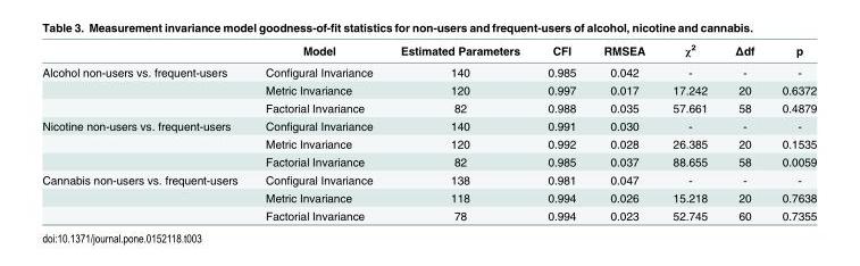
<table><thead><tr><td></td><td>Model</td><td>Estimated Parameters</td><td>CFI</td><td>RMSEA</td><td>χ<sup>2</sup></td><td>Δdf</td><td>p</td></tr></thead><tbody><tr><td rowspan="3">Alcohol non-users vs. frequent-users</td><td>Configural Invariance</td><td>140</td><td>0.985</td><td>0.042</td><td>-</td><td>-</td><td>-</td></tr><tr><td>Metric Invariance</td><td>120</td><td>0.997</td><td>0.017</td><td>17.242</td><td>20</td><td>0.6372</td></tr><tr><td>Factorial Invariance</td><td>82</td><td>0.988</td><td>0.035</td><td>57.661</td><td>58</td><td>0.4879</td></tr><tr><td rowspan="3">Nicotine non-users vs. frequent-users</td><td>Configural Invariance</td><td>140</td><td>0.991</td><td>0.030</td><td>-</td><td>-</td><td>-</td></tr><tr><td>Metric Invariance</td><td>120</td><td>0.992</td><td>0.028</td><td>26.385</td><td>20</td><td>0.1535</td></tr><tr><td>Factorial Invariance</td><td>82</td><td>0.985</td><td>0.037</td><td>88.655</td><td>58</td><td>0.0059</td></tr><tr><td rowspan="3">Cannabis non-users vs. frequent-users</td><td>Configural Invariance</td><td>138</td><td>0.981</td><td>0.047</td><td>-</td><td>-</td><td>-</td></tr><tr><td>Metric Invariance</td><td>118</td><td>0.994</td><td>0.026</td><td>15.218</td><td>20</td><td>0.7638</td></tr><tr><td>Factorial Invariance</td><td>78</td><td>0.994</td><td>0.023</td><td>52.745</td><td>60</td><td>0.7355</td></tr></tbody></table>